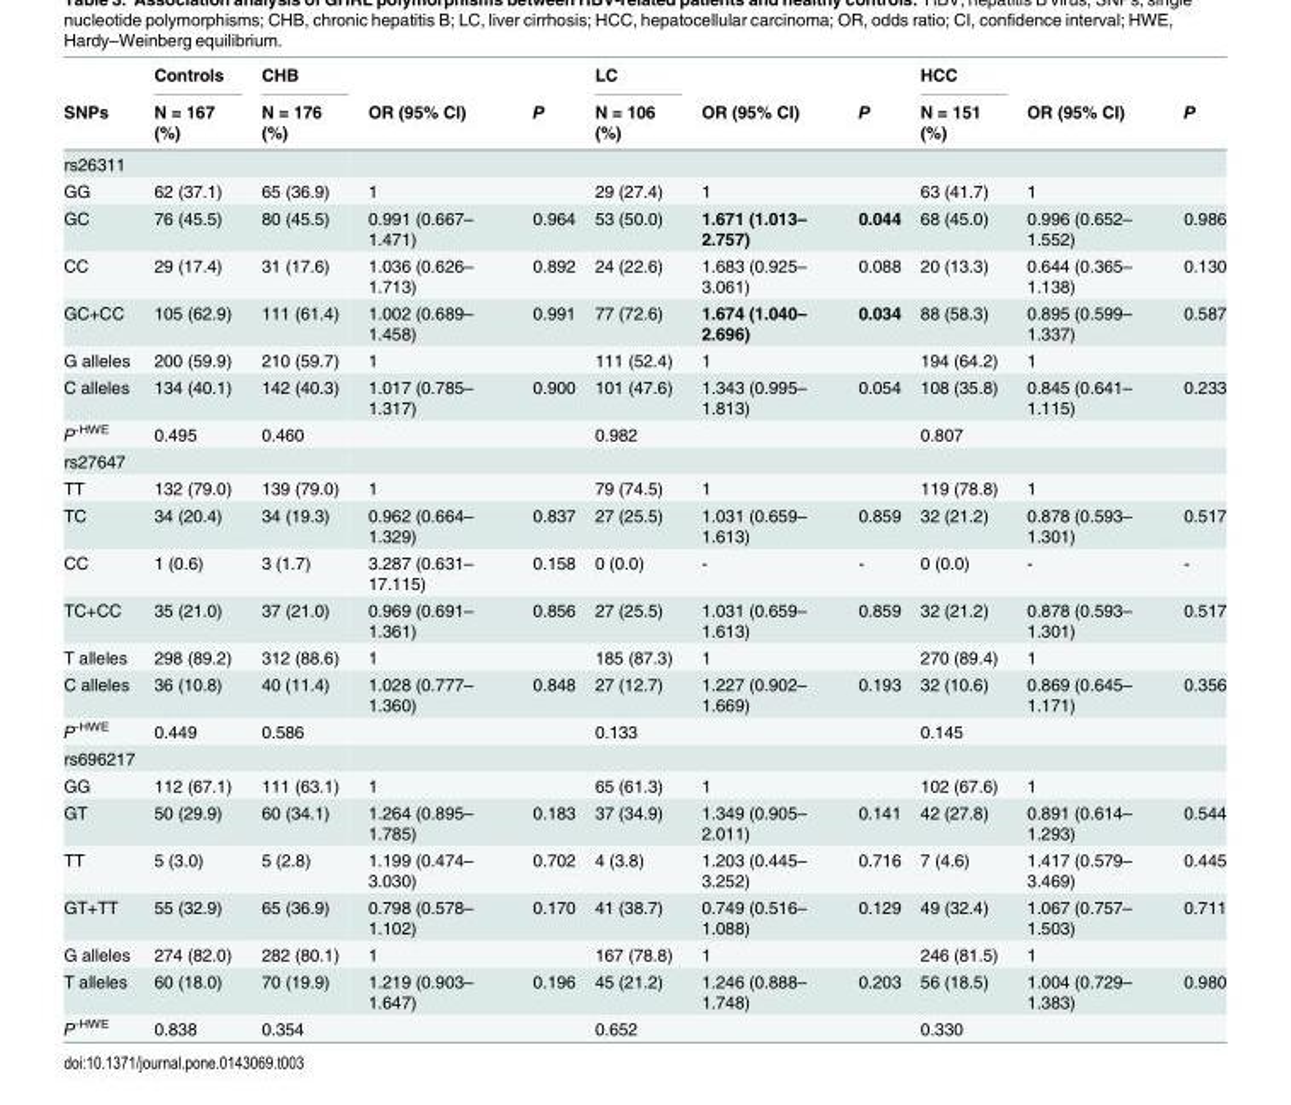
<table><thead><tr><td rowspan="2">SNPs</td><td rowspan="2">Controls N = 167 (%)</td><td rowspan="2">CHB N = 176 (%)</td><td rowspan="2">OR (95% CI)</td><td rowspan="2">P</td><td rowspan="2">LC N = 106 (%)</td><td rowspan="2">OR (95% CI)</td><td rowspan="2">P</td><td rowspan="2">HCC N = 151 (%)</td><td rowspan="2">OR (95% CI)</td><td rowspan="2">P</td></tr><tr></tr></thead><tbody><tr><td colspan="11">rs26311</td></tr><tr><td>GG</td><td>62 (37.1)</td><td>65 (36.9)</td><td>1</td><td></td><td>29 (27.4)</td><td>1</td><td></td><td>63 (41.7)</td><td>1</td><td></td></tr><tr><td>GC</td><td>76 (45.5)</td><td>80 (45.5)</td><td>0.991 (0.667– 1.471)</td><td>0.964</td><td>53 (50.0)</td><td>1.671 (1.013– 2.757)</td><td>0.044</td><td>68 (45.0)</td><td>0.996 (0.652– 1.552)</td><td>0.986</td></tr><tr><td>CC</td><td>29 (17.4)</td><td>31 (17.6)</td><td>1.036 (0.626– 1.713)</td><td>0.892</td><td>24 (22.6)</td><td>1.683 (0.925– 3.061)</td><td>0.088</td><td>20 (13.3)</td><td>0.644 (0.365– 1.138)</td><td>0.130</td></tr><tr><td>GC+CC</td><td>105 (62.9)</td><td>111 (61.4)</td><td>1.002 (0.689– 1.458)</td><td>0.991</td><td>77 (72.6)</td><td>1.674 (1.040– 2.696)</td><td>0.034</td><td>88 (58.3)</td><td>0.895 (0.599– 1.337)</td><td>0.587</td></tr><tr><td>G alleles</td><td>200 (59.9)</td><td>210 (59.7)</td><td>1</td><td></td><td>111 (52.4)</td><td>1</td><td></td><td>194 (64.2)</td><td>1</td><td></td></tr><tr><td>C alleles</td><td>134 (40.1)</td><td>142 (40.3)</td><td>1.017 (0.785– 1.317)</td><td>0.900</td><td>101 (47.6)</td><td>1.343 (0.995– 1.813)</td><td>0.054</td><td>108 (35.8)</td><td>0.845 (0.641– 1.115)</td><td>0.233</td></tr><tr><td>P<sup>-HWE</sup></td><td>0.495</td><td>0.460</td><td></td><td></td><td>0.982</td><td></td><td></td><td>0.807</td><td></td><td></td></tr><tr><td colspan="11">rs27647</td></tr><tr><td>TT</td><td>132 (79.0)</td><td>139 (79.0)</td><td>1</td><td></td><td>79 (74.5)</td><td>1</td><td></td><td>119 (78.8)</td><td>1</td><td></td></tr><tr><td>TC</td><td>34 (20.4)</td><td>34 (19.3)</td><td>0.962 (0.664– 1.329)</td><td>0.837</td><td>27 (25.5)</td><td>1.031 (0.659– 1.613)</td><td>0.859</td><td>32 (21.2)</td><td>0.878 (0.593– 1.301)</td><td>0.517</td></tr><tr><td>CC</td><td>1 (0.6)</td><td>3 (1.7)</td><td>3.287 (0.631– 17.115)</td><td>0.158</td><td>0 (0.0)</td><td>-</td><td>-</td><td>0 (0.0)</td><td>-</td><td>-</td></tr><tr><td>TC+CC</td><td>35 (21.0)</td><td>37 (21.0)</td><td>0.969 (0.691– 1.361)</td><td>0.856</td><td>27 (25.5)</td><td>1.031 (0.659– 1.613)</td><td>0.859</td><td>32 (21.2)</td><td>0.878 (0.593– 1.301)</td><td>0.517</td></tr><tr><td>T alleles</td><td>298 (89.2)</td><td>312 (88.6)</td><td>1</td><td></td><td>185 (87.3)</td><td>1</td><td></td><td>270 (89.4)</td><td>1</td><td></td></tr><tr><td>C alleles</td><td>36 (10.8)</td><td>40 (11.4)</td><td>1.028 (0.777– 1.360)</td><td>0.848</td><td>27 (12.7)</td><td>1.227 (0.902– 1.669)</td><td>0.193</td><td>32 (10.6)</td><td>0.869 (0.645– 1.171)</td><td>0.356</td></tr><tr><td>P<sup>-HWE</sup></td><td>0.449</td><td>0.586</td><td></td><td></td><td>0.133</td><td></td><td></td><td>0.145</td><td></td><td></td></tr><tr><td colspan="11">rs696217</td></tr><tr><td>GG</td><td>112 (67.1)</td><td>111 (63.1)</td><td>1</td><td></td><td>65 (61.3)</td><td>1</td><td></td><td>102 (67.6)</td><td>1</td><td></td></tr><tr><td>GT</td><td>50 (29.9)</td><td>60 (34.1)</td><td>1.264 (0.895– 1.785)</td><td>0.183</td><td>37 (34.9)</td><td>1.349 (0.905– 2.011)</td><td>0.141</td><td>42 (27.8)</td><td>0.891 (0.614– 1.293)</td><td>0.544</td></tr><tr><td>TT</td><td>5 (3.0)</td><td>5 (2.8)</td><td>1.199 (0.474– 3.030)</td><td>0.702</td><td>4 (3.8)</td><td>1.203 (0.445– 3.252)</td><td>0.716</td><td>7 (4.6)</td><td>1.417 (0.579– 3.469)</td><td>0.445</td></tr><tr><td>GT+TT</td><td>55 (32.9)</td><td>65 (36.9)</td><td>0.798 (0.578– 1.102)</td><td>0.170</td><td>41 (38.7)</td><td>0.749 (0.516– 1.088)</td><td>0.129</td><td>49 (32.4)</td><td>1.067 (0.757– 1.503)</td><td>0.711</td></tr><tr><td>G alleles</td><td>274 (82.0)</td><td>282 (80.1)</td><td>1</td><td></td><td>167 (78.8)</td><td>1</td><td></td><td>246 (81.5)</td><td>1</td><td></td></tr><tr><td>T alleles</td><td>60 (18.0)</td><td>70 (19.9)</td><td>1.219 (0.903– 1.647)</td><td>0.196</td><td>45 (21.2)</td><td>1.246 (0.888– 1.748)</td><td>0.203</td><td>56 (18.5)</td><td>1.004 (0.729– 1.383)</td><td>0.980</td></tr><tr><td>P<sup>-HWE</sup></td><td>0.838</td><td>0.354</td><td></td><td></td><td>0.652</td><td></td><td></td><td>0.330</td><td></td><td></td></tr></tbody></table>